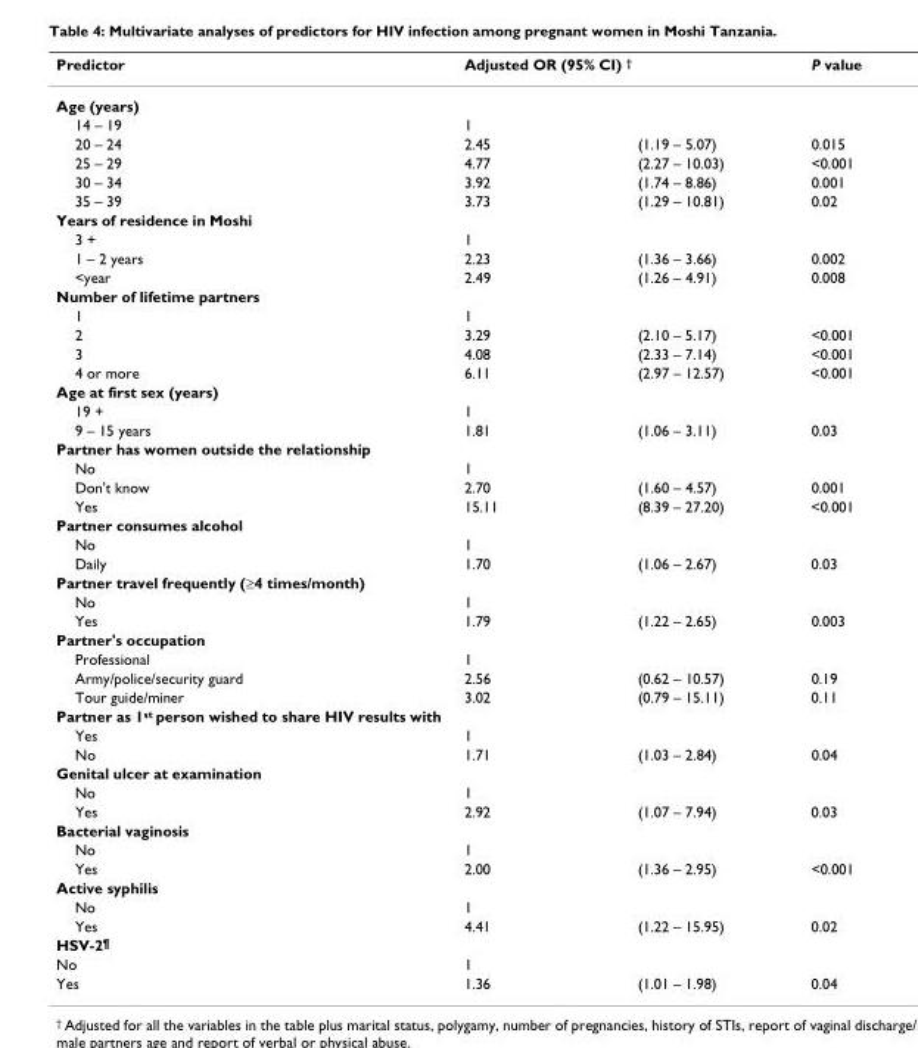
<table><thead><tr><td>Predictor</td><td colspan="2">Adjusted OR (95% CI) <sup>†</sup></td><td>P value</td></tr><tr><td colspan="4">Age (years)</td></tr><tr><td>14 – 19</td><td>1</td><td></td><td></td></tr></thead><tbody><tr><td>20 – 24</td><td>2.45</td><td>(1.19 – 5.07)</td><td>0.015</td></tr><tr><td>25 – 29</td><td>4.77</td><td>(2.27 – 10.03)</td><td>&lt;0.001</td></tr><tr><td>30 – 34</td><td>3.92</td><td>(1.74 – 8.86)</td><td>0.001</td></tr><tr><td>35 – 39</td><td>3.73</td><td>(1.29 – 10.81)</td><td>0.02</td></tr><tr><td colspan="4">Years of residence in Moshi</td></tr><tr><td>3 +</td><td>1</td><td></td><td></td></tr><tr><td>1 – 2 years</td><td>2.23</td><td>(1.36 – 3.66)</td><td>0.002</td></tr><tr><td>&lt;year</td><td>2.49</td><td>(1.26 – 4.91)</td><td>0.008</td></tr><tr><td colspan="4">Number of lifetime partners</td></tr><tr><td>1</td><td>1</td><td></td><td></td></tr><tr><td>2</td><td>3.29</td><td>(2.10 – 5.17)</td><td>&lt;0.001</td></tr><tr><td>3</td><td>4.08</td><td>(2.33 – 7.14)</td><td>&lt;0.001</td></tr><tr><td>4 or more</td><td>6.11</td><td>(2.97 – 12.57)</td><td>&lt;0.001</td></tr><tr><td colspan="4">Age at first sex (years)</td></tr><tr><td>19 +</td><td>1</td><td></td><td></td></tr><tr><td>9 – 15 years</td><td>1.81</td><td>(1.06 – 3.11)</td><td>0.03</td></tr><tr><td colspan="4">Partner has women outside the relationship</td></tr><tr><td>No</td><td>1</td><td></td><td></td></tr><tr><td>Don&#x27;t know</td><td>2.70</td><td>(1.60 – 4.57)</td><td>0.001</td></tr><tr><td>Yes</td><td>15.11</td><td>(8.39 – 27.20)</td><td>&lt;0.001</td></tr><tr><td colspan="4">Partner consumes alcohol</td></tr><tr><td>No</td><td>1</td><td></td><td></td></tr><tr><td>Daily</td><td>1.70</td><td>(1.06 – 2.67)</td><td>0.03</td></tr><tr><td colspan="4">Partner travel frequently (≥4 times/month)</td></tr><tr><td>No</td><td>1</td><td></td><td></td></tr><tr><td>Yes</td><td>1.79</td><td>(1.22 – 2.65)</td><td>0.003</td></tr><tr><td colspan="4">Partner&#x27;s occupation</td></tr><tr><td>Professional</td><td>1</td><td></td><td></td></tr><tr><td>Army/police/security guard</td><td>2.56</td><td>(0.62 – 10.57)</td><td>0.19</td></tr><tr><td>Tour guide/miner</td><td>3.02</td><td>(0.79 – 15.11)</td><td>0.11</td></tr><tr><td colspan="4">Partner as 1<sup>st</sup> person wished to share HIV results with</td></tr><tr><td>Yes</td><td>1</td><td></td><td></td></tr><tr><td>No</td><td>1.71</td><td>(1.03 – 2.84)</td><td>0.04</td></tr><tr><td colspan="4">Genital ulcer at examination</td></tr><tr><td>No</td><td>1</td><td></td><td></td></tr><tr><td>Yes</td><td>2.92</td><td>(1.07 – 7.94)</td><td>0.03</td></tr><tr><td colspan="4">Bacterial vaginosis</td></tr><tr><td>No</td><td>1</td><td></td><td></td></tr><tr><td>Yes</td><td>2.00</td><td>(1.36 – 2.95)</td><td>&lt;0.001</td></tr><tr><td colspan="4">Active syphilis</td></tr><tr><td>No</td><td>1</td><td></td><td></td></tr><tr><td>Yes</td><td>4.41</td><td>(1.22 – 15.95)</td><td>0.02</td></tr><tr><td colspan="4">HSV-2<sup>¶</sup></td></tr><tr><td>No</td><td>1</td><td></td><td></td></tr><tr><td>Yes</td><td>1.36</td><td>(1.01 – 1.98)</td><td>0.04</td></tr></tbody></table>